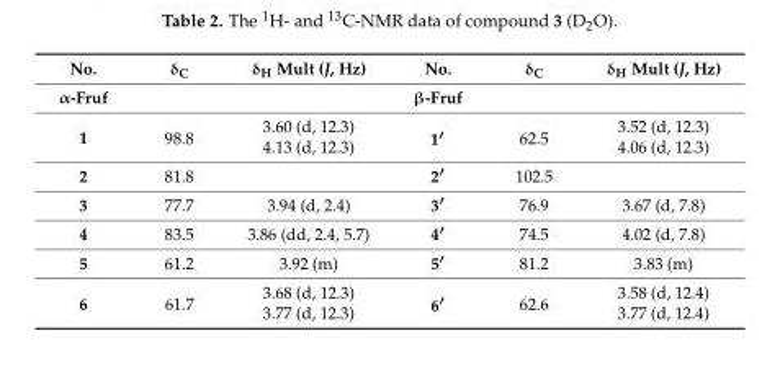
<table><thead><tr><td rowspan="2">No. α-Fruf</td><td rowspan="2">δ<sub>C</sub></td><td rowspan="2">δ<sub>H</sub> Mult (J, Hz)</td><td rowspan="2">No. β-Fruf</td><td rowspan="2">δ<sub>C</sub></td><td rowspan="2">δ<sub>H</sub> Mult (J, Hz)</td></tr><tr></tr></thead><tbody><tr><td rowspan="2">1</td><td rowspan="2">98.8</td><td>3.60 (d, 12.3)</td><td rowspan="2">1′</td><td rowspan="2">62.5</td><td>3.52 (d, 12.3)</td></tr><tr><td>4.13 (d, 12.3)</td><td>4.06 (d, 12.3)</td></tr><tr><td>2</td><td>81.8</td><td></td><td>2′</td><td>102.5</td><td></td></tr><tr><td>3</td><td>77.7</td><td>3.94 (d, 2.4)</td><td>3′</td><td>76.9</td><td>3.67 (d, 7.8)</td></tr><tr><td>4</td><td>83.5</td><td>3.86 (dd, 2.4, 5.7)</td><td>4′</td><td>74.5</td><td>4.02 (d, 7.8)</td></tr><tr><td>5</td><td>61.2</td><td>3.92 (m)</td><td>5′</td><td>81.2</td><td>3.83 (m)</td></tr><tr><td rowspan="2">6</td><td rowspan="2">61.7</td><td>3.68 (d, 12.3)</td><td rowspan="2">6′</td><td rowspan="2">62.6</td><td>3.58 (d, 12.4)</td></tr><tr><td>3.77 (d, 12.3)</td><td>3.77 (d, 12.4)</td></tr></tbody></table>